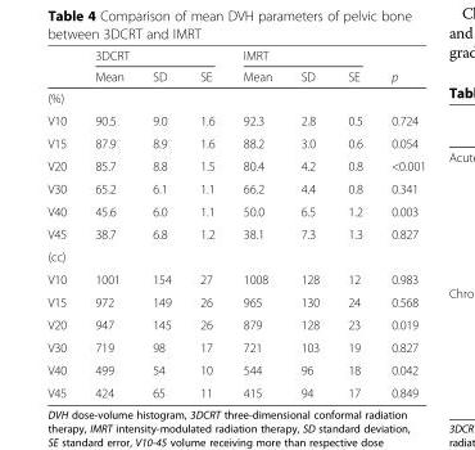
<table><thead><tr><td rowspan="2"></td><td colspan="3">3DCRT</td><td colspan="3">IMRT</td><td rowspan="2">p</td></tr><tr><td>Mean</td><td>SD</td><td>SE</td><td>Mean</td><td>SD</td><td>SE</td></tr></thead><tbody><tr><td colspan="8">(%)</td></tr><tr><td>V10</td><td>90.5</td><td>9.0</td><td>1.6</td><td>92.3</td><td>2.8</td><td>0.5</td><td>0.724</td></tr><tr><td>V15</td><td>87.9</td><td>8.9</td><td>1.6</td><td>88.2</td><td>3.0</td><td>0.6</td><td>0.054</td></tr><tr><td>V20</td><td>85.7</td><td>8.8</td><td>1.5</td><td>80.4</td><td>4.2</td><td>0.8</td><td>&lt;0.001</td></tr><tr><td>V30</td><td>65.2</td><td>6.1</td><td>1.1</td><td>66.2</td><td>4.4</td><td>0.8</td><td>0.341</td></tr><tr><td>V40</td><td>45.6</td><td>6.0</td><td>1.1</td><td>50.0</td><td>6.5</td><td>1.2</td><td>0.003</td></tr><tr><td>V45</td><td>38.7</td><td>6.8</td><td>1.2</td><td>38.1</td><td>7.3</td><td>1.3</td><td>0.827</td></tr><tr><td colspan="8">(cc)</td></tr><tr><td>V10</td><td>1001</td><td>154</td><td>27</td><td>1008</td><td>128</td><td>12</td><td>0.983</td></tr><tr><td>V15</td><td>972</td><td>149</td><td>26</td><td>965</td><td>130</td><td>24</td><td>0.568</td></tr><tr><td>V20</td><td>947</td><td>145</td><td>26</td><td>879</td><td>128</td><td>23</td><td>0.019</td></tr><tr><td>V30</td><td>719</td><td>98</td><td>17</td><td>721</td><td>103</td><td>19</td><td>0.827</td></tr><tr><td>V40</td><td>499</td><td>54</td><td>10</td><td>544</td><td>96</td><td>18</td><td>0.042</td></tr><tr><td>V45</td><td>424</td><td>65</td><td>11</td><td>415</td><td>94</td><td>17</td><td>0.849</td></tr></tbody></table>